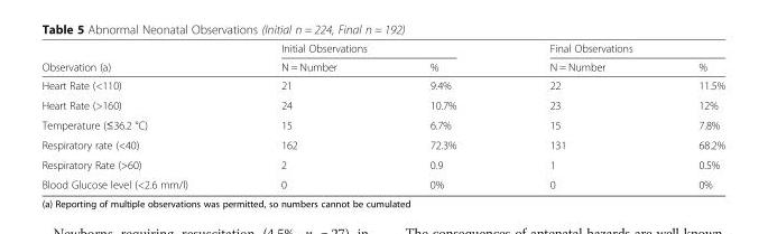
<table><thead><tr><td rowspan="2">Observation (a)</td><td colspan="2">Initial Observations</td><td colspan="2">Final Observations</td></tr><tr><td>N = Number</td><td>%</td><td>N = Number</td><td>%</td></tr></thead><tbody><tr><td>Heart Rate (&lt;110)</td><td>21</td><td>9.4%</td><td>22</td><td>11.5%</td></tr><tr><td>Heart Rate (&gt;160)</td><td>24</td><td>10.7%</td><td>23</td><td>12%</td></tr><tr><td>Temperature (≤36.2 °C)</td><td>15</td><td>6.7%</td><td>15</td><td>7.8%</td></tr><tr><td>Respiratory rate (&lt;40)</td><td>162</td><td>72.3%</td><td>131</td><td>68.2%</td></tr><tr><td>Respiratory Rate (&gt;60)</td><td>2</td><td>0.9</td><td>1</td><td>0.5%</td></tr><tr><td>Blood Glucose level (&lt;2.6 mm/l)</td><td>0</td><td>0%</td><td>0</td><td>0%</td></tr></tbody></table>